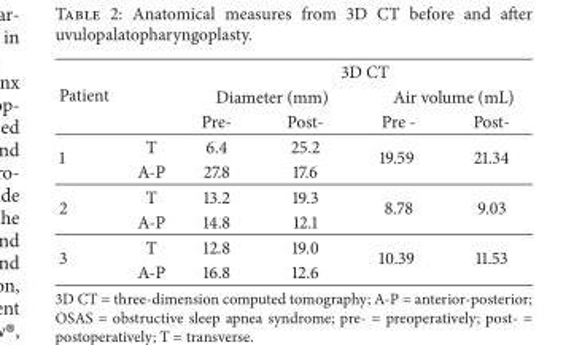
<table><thead><tr><td rowspan="3">Patient</td><td rowspan="3"></td><td colspan="4">3D CT</td></tr><tr><td colspan="2">Diameter (mm)</td><td colspan="2">Air volume (mL)</td></tr><tr><td>Pre-</td><td>Post-</td><td>Pre -</td><td>Post-</td></tr></thead><tbody><tr><td rowspan="2">1</td><td>T</td><td>6.4</td><td>25.2</td><td rowspan="2">19.59</td><td rowspan="2">21.34</td></tr><tr><td>A-P</td><td>27.8</td><td>17.6</td></tr><tr><td rowspan="2">2</td><td>T</td><td>13.2</td><td>19.3</td><td rowspan="2">8.78</td><td rowspan="2">9.03</td></tr><tr><td>A-P</td><td>14.8</td><td>12.1</td></tr><tr><td rowspan="2">3</td><td>T</td><td>12.8</td><td>19.0</td><td rowspan="2">10.39</td><td rowspan="2">11.53</td></tr><tr><td>A-P</td><td>16.8</td><td>12.6</td></tr></tbody></table>